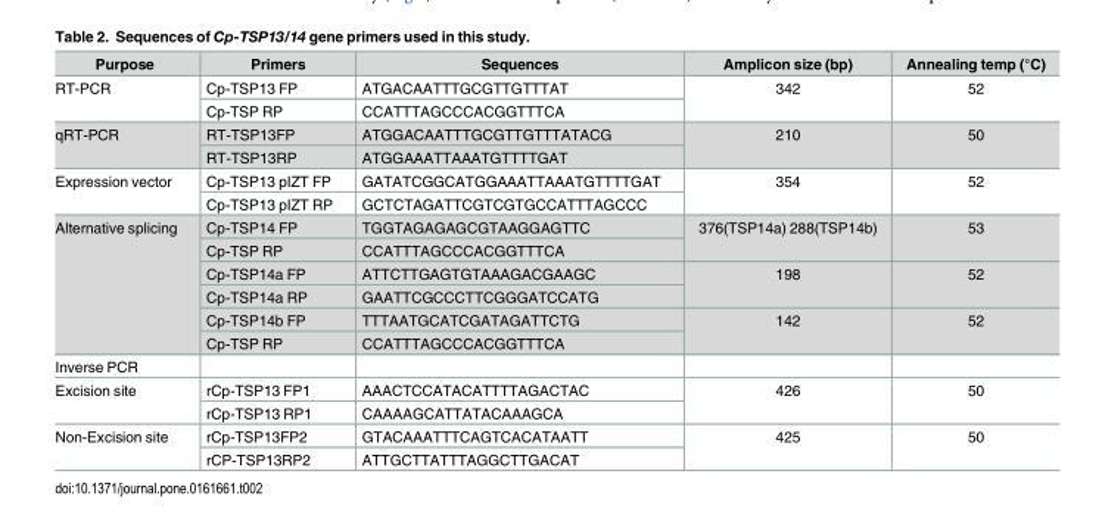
<table><thead><tr><td>Purpose</td><td>Primers</td><td>Sequences</td><td>Amplicon size (bp)</td><td>Annealing temp (°C)</td></tr></thead><tbody><tr><td rowspan="2">RT-PCR</td><td>Cp-TSP13 FP</td><td>ATGACAATTTGCGTTGTTTAT</td><td rowspan="2">342</td><td rowspan="2">52</td></tr><tr><td>Cp-TSP RP</td><td>CCATTTAGCCCACGGTTTCA</td></tr><tr><td rowspan="2">qRT-PCR</td><td>RT-TSP13FP</td><td>ATGGACAATTTGCGTTGTTTATACG</td><td rowspan="2">210</td><td rowspan="2">50</td></tr><tr><td>RT-TSP13RP</td><td>ATGGAAATTAAATGTTTTGAT</td></tr><tr><td rowspan="2">Expression vector</td><td>Cp-TSP13 pIZT FP</td><td>GATATCGGCATGGAAATTAAATGTTTTGAT</td><td rowspan="2">354</td><td rowspan="2">52</td></tr><tr><td>Cp-TSP13 pIZT RP</td><td>GCTCTAGATTCGTCGTGCCATTTAGCCC</td></tr><tr><td rowspan="6">Alternative splicing</td><td>Cp-TSP14 FP</td><td>TGGTAGAGAGCGTAAGGAGTTC</td><td rowspan="2">376(TSP14a) 288(TSP14b)</td><td rowspan="2">53</td></tr><tr><td>Cp-TSP RP</td><td>CCATTTAGCCCACGGTTTCA</td></tr><tr><td>Cp-TSP14a FP</td><td>ATTCTTGAGTGTAAAGACGAAGC</td><td rowspan="2">198</td><td rowspan="2">52</td></tr><tr><td>Cp-TSP14a RP</td><td>GAATTCGCCCTTCGGGATCCATG</td></tr><tr><td>Cp-TSP14b FP</td><td>TTTAATGCATCGATAGATTCTG</td><td rowspan="2">142</td><td rowspan="2">52</td></tr><tr><td>Cp-TSP RP</td><td>CCATTTAGCCCACGGTTTCA</td></tr><tr><td colspan="5">Inverse PCR</td></tr><tr><td rowspan="2">Excision site</td><td>rCp-TSP13 FP1</td><td>AAACTCCATACATTTTAGACTAC</td><td rowspan="2">426</td><td rowspan="2">50</td></tr><tr><td>rCp-TSP13 RP1</td><td>CAAAAGCATTATACAAAGCA</td></tr><tr><td rowspan="2">Non-Excision site</td><td>rCp-TSP13FP2</td><td>GTACAAATTTCAGTCACATAATT</td><td rowspan="2">425</td><td rowspan="2">50</td></tr><tr><td>rCP-TSP13RP2</td><td>ATTGCTTATTTAGGCTTGACAT</td></tr></tbody></table>